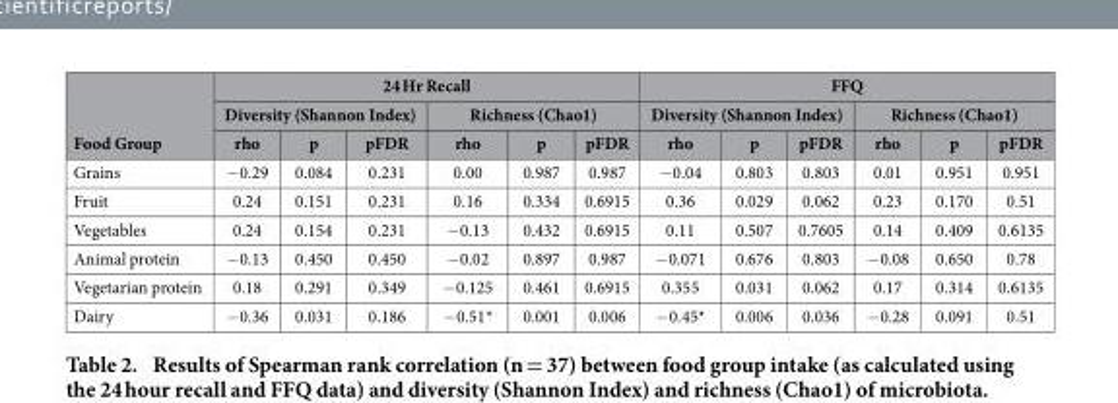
<table><thead><tr><td rowspan="3">Food Group</td><td colspan="6">24 Hr Recall</td><td colspan="6">FFQ</td></tr><tr><td colspan="3">Diversity (Shannon Index)</td><td colspan="3">Richness (Chao1)</td><td colspan="3">Diversity (Shannon Index)</td><td colspan="3">Richness (Chao1)</td></tr><tr><td>rho</td><td>p</td><td>pFDR</td><td>rho</td><td>p</td><td>pFDR</td><td>rho</td><td>p</td><td>pFDR</td><td>rho</td><td>p</td><td>pFDR</td></tr></thead><tbody><tr><td>Grains</td><td>− 0.29</td><td>0.084</td><td>0.231</td><td>0.00</td><td>0.987</td><td>0.987</td><td>− 0.04</td><td>0.803</td><td>0.803</td><td>0.01</td><td>0.951</td><td>0.951</td></tr><tr><td>Fruit</td><td>0.24</td><td>0.151</td><td>0.231</td><td>0.16</td><td>0.334</td><td>0.6915</td><td>0.36</td><td>0.029</td><td>0.062</td><td>0.23</td><td>0.170</td><td>0.51</td></tr><tr><td>Vegetables</td><td>0.24</td><td>0.154</td><td>0.231</td><td>− 0.13</td><td>0.432</td><td>0.6915</td><td>0.11</td><td>0.507</td><td>0.7605</td><td>0.14</td><td>0.409</td><td>0.6135</td></tr><tr><td>Animal protein</td><td>− 0.13</td><td>0.450</td><td>0.450</td><td>− 0.02</td><td>0.897</td><td>0.987</td><td>− 0.071</td><td>0.676</td><td>0.803</td><td>− 0.08</td><td>0.650</td><td>0.78</td></tr><tr><td>Vegetarian protein</td><td>0.18</td><td>0.291</td><td>0.349</td><td>− 0.125</td><td>0.461</td><td>0.6915</td><td>0.355</td><td>0.031</td><td>0.062</td><td>0.17</td><td>0.314</td><td>0.6135</td></tr><tr><td>Dairy</td><td>− 0.36</td><td>0.031</td><td>0.186</td><td>− 0.51*</td><td>0.001</td><td>0.006</td><td>− 0.45*</td><td>0.006</td><td>0.036</td><td>− 0.28</td><td>0.091</td><td>0.51</td></tr></tbody></table>